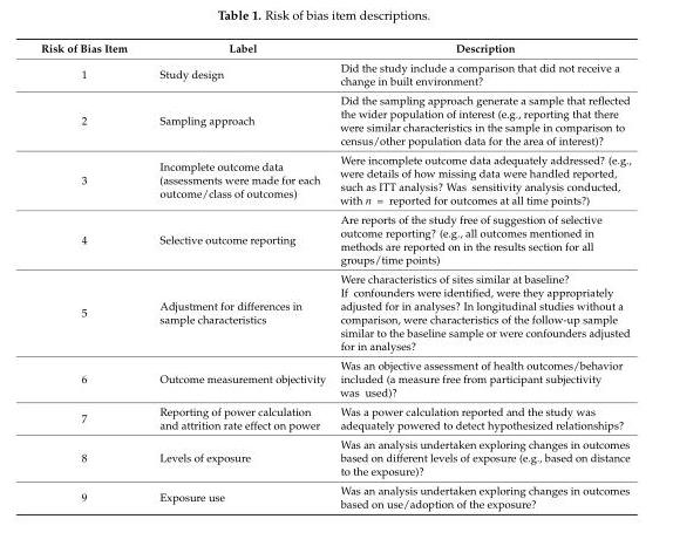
<table><thead><tr><td>Risk of Bias Item</td><td>Label</td><td>Description</td></tr></thead><tbody><tr><td>1</td><td>Study design</td><td>Did the study include a comparison that did not receive a change in built environment?</td></tr><tr><td>2</td><td>Sampling approach</td><td>Did the sampling approach generate a sample that reflected the wider population of interest (e.g., reporting that there were similar characteristics in the sample in comparison to census/other population data for the area of interest)?</td></tr><tr><td>3</td><td>Incomplete outcome data (assessments were made for each outcome/class of outcomes)</td><td>Were incomplete outcome data adequately addressed? (e.g., were details of how missing data were handled reported, such as ITT analysis? Was sensitivity analysis conducted, with n = reported for outcomes at all time points?)</td></tr><tr><td>4</td><td>Selective outcome reporting</td><td>Are reports of the study free of suggestion of selective outcome reporting? (e.g., all outcomes mentioned in methods are reported on in the results section for all groups/time points)</td></tr><tr><td>5</td><td>Adjustment for differences in sample characteristics</td><td>Were characteristics of sites similar at baseline? If confounders were identified, were they appropriately adjusted for in analyses? In longitudinal studies without a comparison, were characteristics of the follow-up sample similar to the baseline sample or were confounders adjusted for in analyses?</td></tr><tr><td>6</td><td>Outcome measurement objectivity</td><td>Was an objective assessment of health outcomes/behavior included (a measure free from participant subjectivity was used)?</td></tr><tr><td>7</td><td>Reporting of power calculation and attrition rate effect on power</td><td>Was a power calculation reported and the study was adequately powered to detect hypothesized relationships?</td></tr><tr><td>8</td><td>Levels of exposure</td><td>Was an analysis undertaken exploring changes in outcomes based on different levels of exposure (e.g., based on distance to the exposure)?</td></tr><tr><td>9</td><td>Exposure use</td><td>Was an analysis undertaken exploring changes in outcomes based on use/adoption of the exposure?</td></tr></tbody></table>